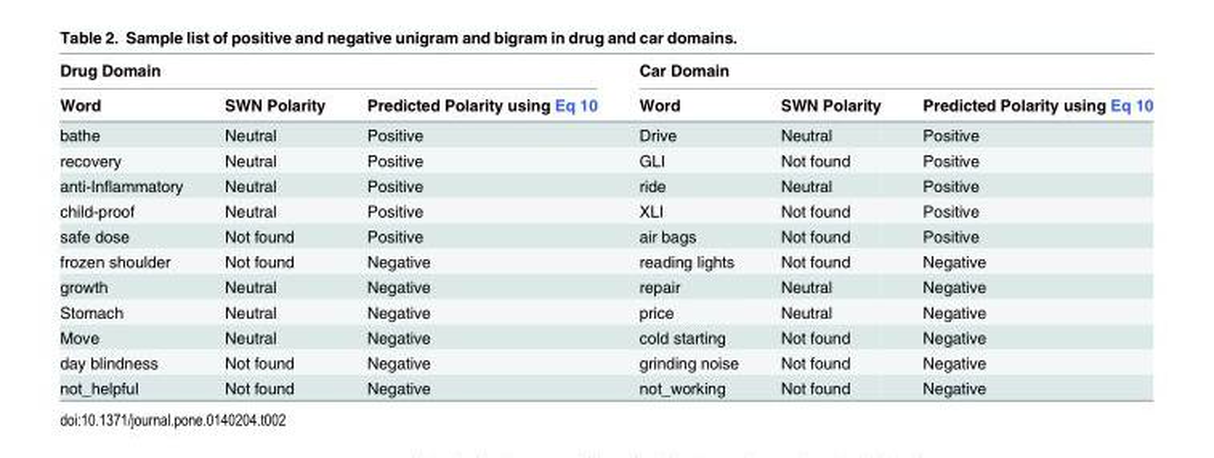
<table><thead><tr><td colspan="3">Drug Domain</td><td colspan="3">Car Domain</td></tr><tr><td>Word</td><td>SWN Polarity</td><td>Predicted Polarity using Eq 10</td><td>Word</td><td>SWN Polarity</td><td>Predicted Polarity using Eq 10</td></tr></thead><tbody><tr><td>bathe</td><td>Neutral</td><td>Positive</td><td>Drive</td><td>Neutral</td><td>Positive</td></tr><tr><td>recovery</td><td>Neutral</td><td>Positive</td><td>GLI</td><td>Not found</td><td>Positive</td></tr><tr><td>anti-Inflammatory</td><td>Neutral</td><td>Positive</td><td>ride</td><td>Neutral</td><td>Positive</td></tr><tr><td>child-proof</td><td>Neutral</td><td>Positive</td><td>XLI</td><td>Not found</td><td>Positive</td></tr><tr><td>safe dose</td><td>Not found</td><td>Positive</td><td>air bags</td><td>Not found</td><td>Positive</td></tr><tr><td>frozen shoulder</td><td>Not found</td><td>Negative</td><td>reading lights</td><td>Not found</td><td>Negative</td></tr><tr><td>growth</td><td>Neutral</td><td>Negative</td><td>repair</td><td>Neutral</td><td>Negative</td></tr><tr><td>Stomach</td><td>Neutral</td><td>Negative</td><td>price</td><td>Neutral</td><td>Negative</td></tr><tr><td>Move</td><td>Neutral</td><td>Negative</td><td>cold starting</td><td>Not found</td><td>Negative</td></tr><tr><td>day blindness</td><td>Not found</td><td>Negative</td><td>grinding noise</td><td>Not found</td><td>Negative</td></tr><tr><td>not_helpful</td><td>Not found</td><td>Negative</td><td>not_working</td><td>Not found</td><td>Negative</td></tr></tbody></table>